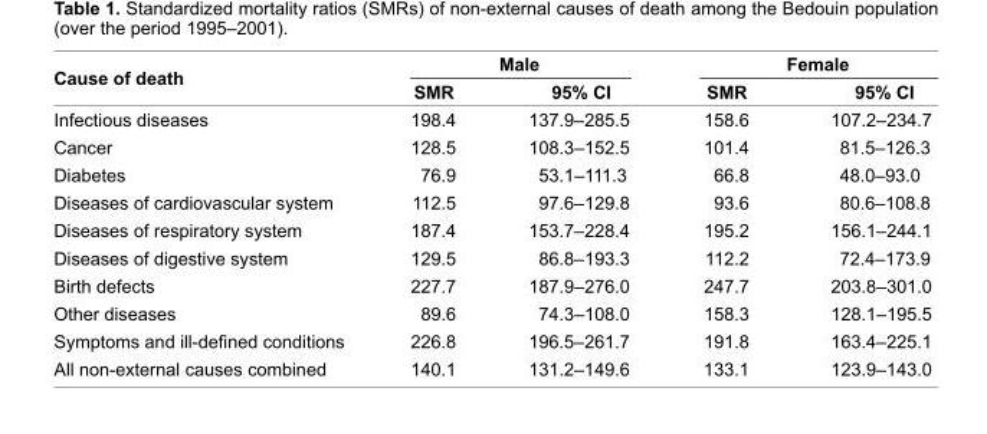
<table><thead><tr><td rowspan="2">Cause of death</td><td colspan="2">Male</td><td colspan="2">Female</td></tr><tr><td>SMR</td><td>95% CI</td><td>SMR</td><td>95% CI</td></tr></thead><tbody><tr><td>Infectious diseases</td><td>198.4</td><td>137.9–285.5</td><td>158.6</td><td>107.2–234.7</td></tr><tr><td>Cancer</td><td>128.5</td><td>108.3–152.5</td><td>101.4</td><td>81.5–126.3</td></tr><tr><td>Diabetes</td><td>76.9</td><td>53.1–111.3</td><td>66.8</td><td>48.0–93.0</td></tr><tr><td>Diseases of cardiovascular system</td><td>112.5</td><td>97.6–129.8</td><td>93.6</td><td>80.6–108.8</td></tr><tr><td>Diseases of respiratory system</td><td>187.4</td><td>153.7–228.4</td><td>195.2</td><td>156.1–244.1</td></tr><tr><td>Diseases of digestive system</td><td>129.5</td><td>86.8–193.3</td><td>112.2</td><td>72.4–173.9</td></tr><tr><td>Birth defects</td><td>227.7</td><td>187.9–276.0</td><td>247.7</td><td>203.8–301.0</td></tr><tr><td>Other diseases</td><td>89.6</td><td>74.3–108.0</td><td>158.3</td><td>128.1–195.5</td></tr><tr><td>Symptoms and ill-defi ned conditions</td><td>226.8</td><td>196.5–261.7</td><td>191.8</td><td>163.4–225.1</td></tr><tr><td>All non-external causes combined</td><td>140.1</td><td>131.2–149.6</td><td>133.1</td><td>123.9–143.0</td></tr></tbody></table>